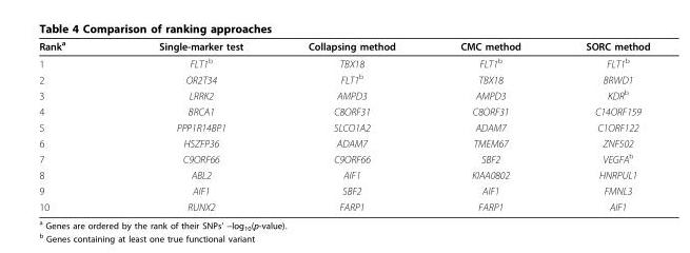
<table><thead><tr><td>Rank<sup>a</sup></td><td>Single-marker test</td><td>Collapsing method</td><td>CMC method</td><td>SORC method</td></tr></thead><tbody><tr><td>1</td><td>FLT1<sup>b</sup></td><td>TBX18</td><td>FLT1<sup>b</sup></td><td>FLT1<sup>b</sup></td></tr><tr><td>2</td><td>OR2T34</td><td>FLT1<sup>b</sup></td><td>TBX18</td><td>BRWD1</td></tr><tr><td>3</td><td>LRRK2</td><td>AMPD3</td><td>AMPD3</td><td>KDR<sup>b</sup></td></tr><tr><td>4</td><td>BRCA1</td><td>C8ORF31</td><td>C8ORF31</td><td>C14ORF159</td></tr><tr><td>5</td><td>PPP1R14BP1</td><td>SLCO1A2</td><td>ADAM7</td><td>C1ORF122</td></tr><tr><td>6</td><td>HSZFP36</td><td>ADAM7</td><td>TMEM67</td><td>ZNF502</td></tr><tr><td>7</td><td>C9ORF66</td><td>C9ORF66</td><td>SBF2</td><td>VEGFA<sup>b</sup></td></tr><tr><td>8</td><td>ABL2</td><td>AIF1</td><td>KIAA0802</td><td>HNRPUL1</td></tr><tr><td>9</td><td>AIF1</td><td>SBF2</td><td>AIF1</td><td>FMNL3</td></tr><tr><td>10</td><td>RUNX2</td><td>FARP1</td><td>FARP1</td><td>AIF1</td></tr></tbody></table>